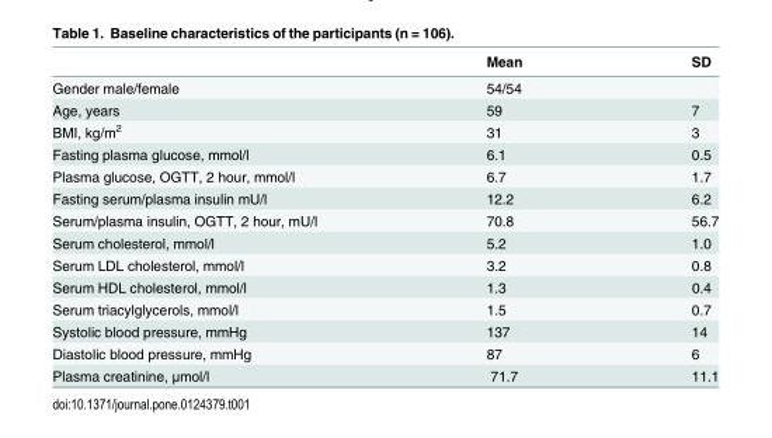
<table><thead><tr><td></td><td>Mean</td><td>SD</td></tr></thead><tbody><tr><td>Gender male/female</td><td>54/54</td><td></td></tr><tr><td>Age, years</td><td>59</td><td>7</td></tr><tr><td>BMI, kg/m<sup>2</sup></td><td>31</td><td>3</td></tr><tr><td>Fasting plasma glucose, mmol/l</td><td>6.1</td><td>0.5</td></tr><tr><td>Plasma glucose, OGTT, 2 hour, mmol/l</td><td>6.7</td><td>1.7</td></tr><tr><td>Fasting serum/plasma insulin mU/l</td><td>12.2</td><td>6.2</td></tr><tr><td>Serum/plasma insulin, OGTT, 2 hour, mU/l</td><td>70.8</td><td>56.7</td></tr><tr><td>Serum cholesterol, mmol/l</td><td>5.2</td><td>1.0</td></tr><tr><td>Serum LDL cholesterol, mmol/l</td><td>3.2</td><td>0.8</td></tr><tr><td>Serum HDL cholesterol, mmol/l</td><td>1.3</td><td>0.4</td></tr><tr><td>Serum triacylglycerols, mmol/l</td><td>1.5</td><td>0.7</td></tr><tr><td>Systolic blood pressure, mmHg</td><td>137</td><td>14</td></tr><tr><td>Diastolic blood pressure, mmHg</td><td>87</td><td>6</td></tr><tr><td>Plasma creatinine, μmol/l</td><td>71.7</td><td>11.1</td></tr></tbody></table>